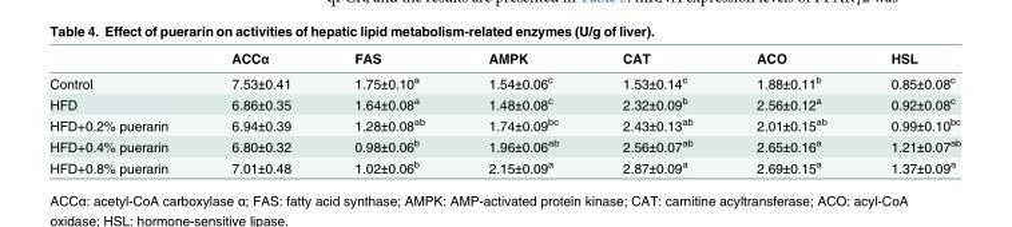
<table><thead><tr><td></td><td>ACCα</td><td>FAS</td><td>AMPK</td><td>CAT</td><td>ACO</td><td>HSL</td></tr></thead><tbody><tr><td>Control</td><td>7.53±0.41</td><td>1.75±0.10<sup>a</sup></td><td>1.54±0.06<sup>c</sup></td><td>1.53±0.14<sup>c</sup></td><td>1.88±0.11<sup>b</sup></td><td>0.85±0.08<sup>c</sup></td></tr><tr><td>HFD</td><td>6.86±0.35</td><td>1.64±0.08<sup>a</sup></td><td>1.48±0.08<sup>c</sup></td><td>2.32±0.09<sup>b</sup></td><td>2.56±0.12<sup>a</sup></td><td>0.92±0.08<sup>c</sup></td></tr><tr><td>HFD+0.2% puerarin</td><td>6.94±0.39</td><td>1.28±0.08<sup>ab</sup></td><td>1.74±0.09<sup>bc</sup></td><td>2.43±0.13<sup>ab</sup></td><td>2.01±0.15<sup>ab</sup></td><td>0.99±0.10<sup>bc</sup></td></tr><tr><td>HFD+0.4% puerarin</td><td>6.80±0.32</td><td>0.98±0.06<sup>b</sup></td><td>1.96±0.06<sup>ab</sup></td><td>2.56±0.07<sup>ab</sup></td><td>2.65±0.16<sup>a</sup></td><td>1.21±0.07<sup>ab</sup></td></tr><tr><td>HFD+0.8% puerarin</td><td>7.01±0.48</td><td>1.02±0.06<sup>b</sup></td><td>2.15±0.09<sup>a</sup></td><td>2.87±0.09<sup>a</sup></td><td>2.69±0.15<sup>a</sup></td><td>1.37±0.09<sup>a</sup></td></tr></tbody></table>